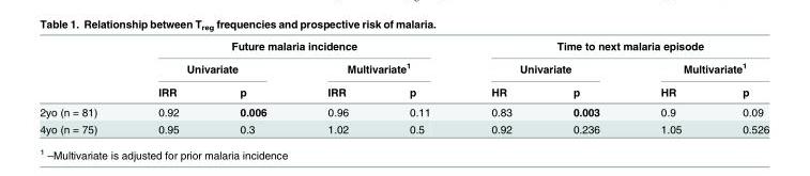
<table><thead><tr><td rowspan="3"></td><td colspan="4">Future malaria incidence</td><td colspan="4">Time to next malaria episode</td></tr><tr><td colspan="2">Univariate</td><td colspan="2">Multivariate<sup>1</sup></td><td colspan="2">Univariate</td><td colspan="2">Multivariate<sup>1</sup></td></tr><tr><td>IRR</td><td>p</td><td>IRR</td><td>p</td><td>HR</td><td>p</td><td>HR</td><td>p</td></tr></thead><tbody><tr><td>2yo (n = 81)</td><td>0.92</td><td>0.006</td><td>0.96</td><td>0.11</td><td>0.83</td><td>0.003</td><td>0.9</td><td>0.09</td></tr><tr><td>4yo (n = 75)</td><td>0.95</td><td>0.3</td><td>1.02</td><td>0.5</td><td>0.92</td><td>0.236</td><td>1.05</td><td>0.526</td></tr></tbody></table>